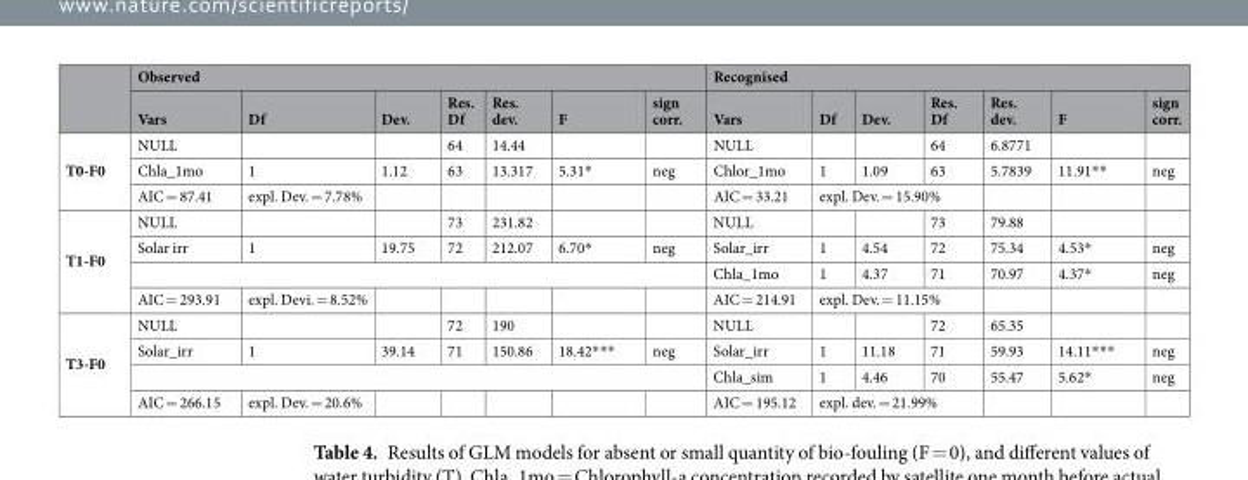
<table><thead><tr><td rowspan="2"></td><td colspan="7">Observed</td><td colspan="7">Recognised</td></tr><tr><td>Vars</td><td>Df</td><td>Dev.</td><td>Res. Df</td><td>Res. dev.</td><td>F</td><td>sign corr.</td><td>Vars</td><td>Df</td><td>Dev.</td><td>Res. Df</td><td>Res. dev.</td><td>F</td><td>sign corr.</td></tr></thead><tbody><tr><td rowspan="3">T0-F0</td><td>NULL</td><td></td><td></td><td>64</td><td>14.44</td><td></td><td></td><td>NULL</td><td></td><td></td><td>64</td><td>6.8771</td><td></td><td></td></tr><tr><td>Chla_1mo</td><td>1</td><td>1.12</td><td>63</td><td>13.317</td><td>5.31*</td><td>neg</td><td>Chlor_1mo</td><td>1</td><td>1.09</td><td>63</td><td>5.7839</td><td>11.91**</td><td>neg</td></tr><tr><td>AIC = 87.41</td><td>expl. Dev. = 7.78%</td><td></td><td></td><td></td><td></td><td></td><td>AIC = 33.21</td><td colspan="3">expl. Dev. = 15.90%</td><td></td><td></td><td></td></tr><tr><td rowspan="4">T1-F0</td><td>NULL</td><td></td><td></td><td>73</td><td>231.82</td><td></td><td></td><td>NULL</td><td></td><td></td><td>73</td><td>79.88</td><td></td><td></td></tr><tr><td>Solar irr</td><td>1</td><td>19.75</td><td>72</td><td>212.07</td><td>6.70*</td><td>neg</td><td>Solar_irr</td><td>1</td><td>4.54</td><td>72</td><td>75.34</td><td>4.53*</td><td>neg</td></tr><tr><td colspan="7"></td><td>Chla_1mo</td><td>1</td><td>4.37</td><td>71</td><td>70.97</td><td>4.37*</td><td>neg</td></tr><tr><td>AIC = 293.91</td><td>expl. Devi. = 8.52%</td><td></td><td></td><td></td><td></td><td></td><td>AIC = 214.91</td><td colspan="3">expl. Dev. = 11.15%</td><td></td><td></td><td></td></tr><tr><td rowspan="4">T3-F0</td><td>NULL</td><td></td><td></td><td>72</td><td>190</td><td></td><td></td><td>NULL</td><td></td><td></td><td>72</td><td>65.35</td><td></td><td></td></tr><tr><td>Solar_irr</td><td>1</td><td>39.14</td><td>71</td><td>150.86</td><td>18.42***</td><td>neg</td><td>Solar_irr</td><td>1</td><td>11.18</td><td>71</td><td>59.93</td><td>14.11***</td><td>neg</td></tr><tr><td colspan="7"></td><td>Chla_sim</td><td>1</td><td>4.46</td><td>70</td><td>55.47</td><td>5.62*</td><td>neg</td></tr><tr><td>AIC = 266.15</td><td>expl. Dev. = 20.6%</td><td></td><td></td><td></td><td></td><td></td><td>AIC = 195.12</td><td colspan="3">expl. dev. = 21.99%</td><td></td><td></td><td></td></tr></tbody></table>